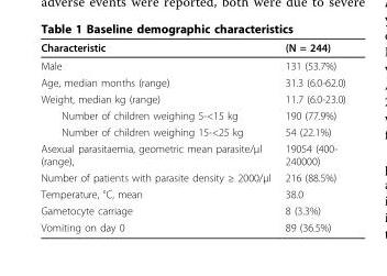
<table><thead><tr><td>Characteristic</td><td>(N = 244)</td></tr></thead><tbody><tr><td>Male</td><td>131 (53.7%)</td></tr><tr><td>Age, median months (range)</td><td>31.3 (6.0-62.0)</td></tr><tr><td>Weight, median kg (range)</td><td>11.7 (6.0-23.0)</td></tr><tr><td>Number of children weighing 5-&lt;15 kg</td><td>190 (77.9%)</td></tr><tr><td>Number of children weighing 15-&lt;25 kg</td><td>54 (22.1%)</td></tr><tr><td>Asexual parasitaemia, geometric mean parasite/μl (range),</td><td>19054 (400- 240000)</td></tr><tr><td>Number of patients with parasite density ≥ 2000/μl</td><td>216 (88.5%)</td></tr><tr><td>Temperature, °C, mean</td><td>38.0</td></tr><tr><td>Gametocyte carriage</td><td>8 (3.3%)</td></tr><tr><td>Vomiting on day 0</td><td>89 (36.5%)</td></tr></tbody></table>